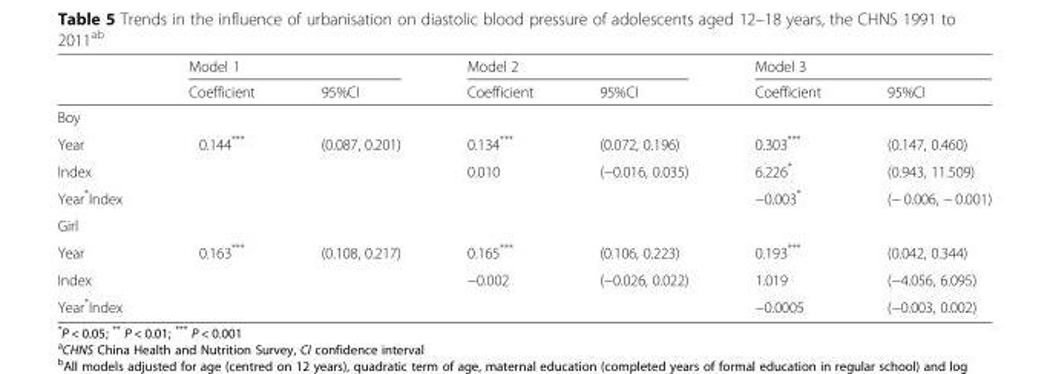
<table><thead><tr><td rowspan="2"></td><td colspan="2">Model 1</td><td colspan="2">Model 2</td><td colspan="2">Model 3</td></tr><tr><td>Coefficient</td><td>95%CI</td><td>Coefficient</td><td>95%CI</td><td>Coefficient</td><td>95%CI</td></tr></thead><tbody><tr><td colspan="7">Boy</td></tr><tr><td>Year</td><td>0.144***</td><td>(0.087, 0.201)</td><td>0.134***</td><td>(0.072, 0.196)</td><td>0.303***</td><td>(0.147, 0.460)</td></tr><tr><td>Index</td><td></td><td></td><td>0.010</td><td>(−0.016, 0.035)</td><td>6.226*</td><td>(0.943, 11.509)</td></tr><tr><td>Year*Index</td><td></td><td></td><td></td><td></td><td>−0.003*</td><td>(− 0.006, − 0.001)</td></tr><tr><td colspan="7">Girl</td></tr><tr><td>Year</td><td>0.163***</td><td>(0.108, 0.217)</td><td>0.165***</td><td>(0.106, 0.223)</td><td>0.193***</td><td>(0.042, 0.344)</td></tr><tr><td>Index</td><td></td><td></td><td>−0.002</td><td>(−0.026, 0.022)</td><td>1.019</td><td>(−4.056, 6.095)</td></tr><tr><td>Year*Index</td><td></td><td></td><td></td><td></td><td>−0.0005</td><td>(−0.003, 0.002)</td></tr></tbody></table>